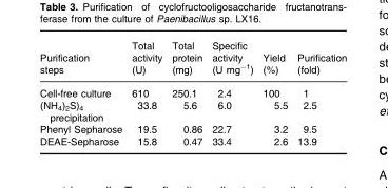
<table><thead><tr><td>Purification steps</td><td>Total activity (U)</td><td>Total protein (mg)</td><td>Specific activity (U mg<sup>−1</sup>)</td><td>Yield (%)</td><td>Purification (fold)</td></tr></thead><tbody><tr><td>Cell-free culture</td><td>610</td><td>250.1</td><td>2.4</td><td>100</td><td>1</td></tr><tr><td>(NH<sub>4</sub>)<sub>2</sub>S)<sub>4</sub> precipitation</td><td>33.8</td><td>5.6</td><td>6.0</td><td>5.5</td><td>2.5</td></tr><tr><td>Phenyl Sepharose</td><td>19.5</td><td>0.86</td><td>22.7</td><td>3.2</td><td>9.5</td></tr><tr><td>DEAE-Sepharose</td><td>15.8</td><td>0.47</td><td>33.4</td><td>2.6</td><td>13.9</td></tr></tbody></table>